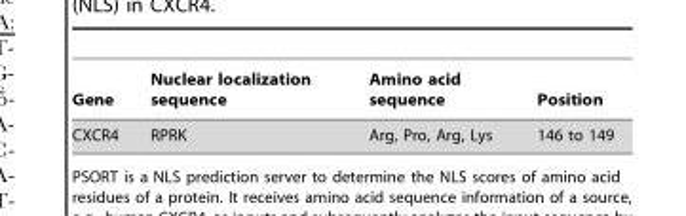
<table><thead><tr><td>Gene</td><td>Nuclear localization sequence</td><td>Amino acid sequence</td><td>Position</td></tr></thead><tbody><tr><td>CXCR4</td><td>RPRK</td><td>Arg, Pro, Arg, Lys</td><td>146 to 149</td></tr></tbody></table>